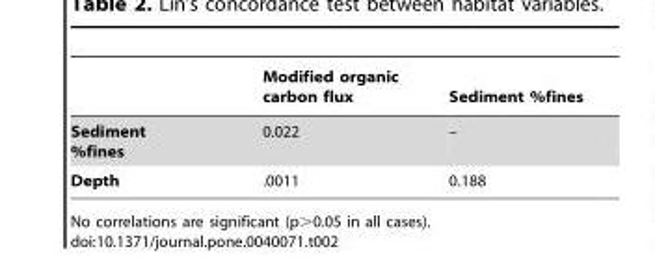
<table><thead><tr><td></td><td>Modified organic carbon flux</td><td>Sediment %fines</td></tr></thead><tbody><tr><td>Sediment %fines</td><td>0.022</td><td>–</td></tr><tr><td>Depth</td><td>.0011</td><td>0.188</td></tr></tbody></table>